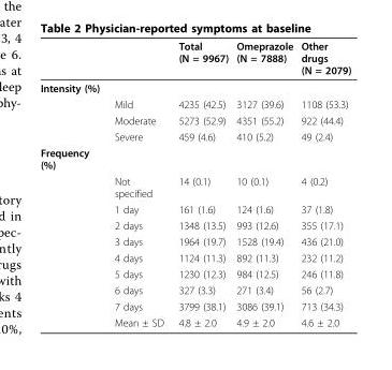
<table><thead><tr><td></td><td></td><td>Total (N = 9967)</td><td>Omeprazole (N = 7888)</td><td>Other drugs (N = 2079)</td></tr></thead><tbody><tr><td colspan="5">Intensity (%)</td></tr><tr><td></td><td>Mild</td><td>4235 (42.5)</td><td>3127 (39.6)</td><td>1108 (53.3)</td></tr><tr><td></td><td>Moderate</td><td>5273 (52.9)</td><td>4351 (55.2)</td><td>922 (44.4)</td></tr><tr><td></td><td>Severe</td><td>459 (4.6)</td><td>410 (5.2)</td><td>49 (2.4)</td></tr><tr><td colspan="5">Frequency (%)</td></tr><tr><td></td><td>Not specified</td><td>14 (0.1)</td><td>10 (0.1)</td><td>4 (0.2)</td></tr><tr><td></td><td>1 day</td><td>161 (1.6)</td><td>124 (1.6)</td><td>37 (1.8)</td></tr><tr><td></td><td>2 days</td><td>1348 (13.5)</td><td>993 (12.6)</td><td>355 (17.1)</td></tr><tr><td></td><td>3 days</td><td>1964 (19.7)</td><td>1528 (19.4)</td><td>436 (21.0)</td></tr><tr><td></td><td>4 days</td><td>1124 (11.3)</td><td>892 (11.3)</td><td>232 (11.2)</td></tr><tr><td></td><td>5 days</td><td>1230 (12.3)</td><td>984 (12.5)</td><td>246 (11.8)</td></tr><tr><td></td><td>6 days</td><td>327 (3.3)</td><td>271 (3.4)</td><td>56 (2.7)</td></tr><tr><td></td><td>7 days</td><td>3799 (38.1)</td><td>3086 (39.1)</td><td>713 (34.3)</td></tr><tr><td></td><td>Mean ± SD</td><td>4.8 ± 2.0</td><td>4.9 ± 2.0</td><td>4.6 ± 2.0</td></tr></tbody></table>